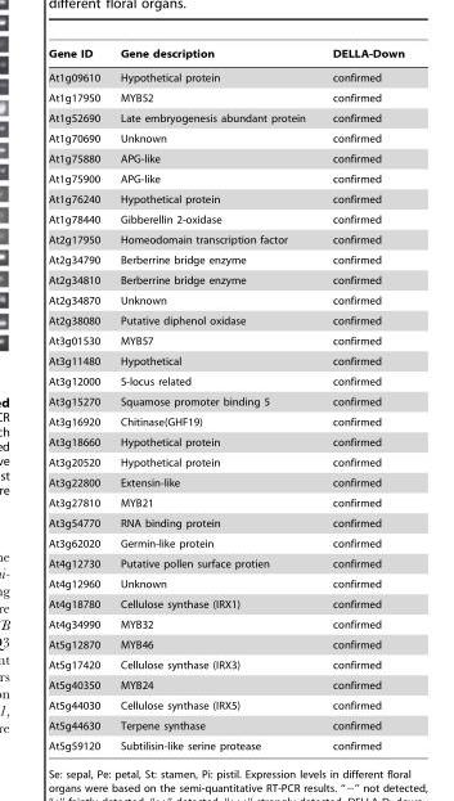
<table><thead><tr><td>Gene ID</td><td>Gene description</td><td>DELLA-Down</td></tr></thead><tbody><tr><td>At1g09610</td><td>Hypothetical protein</td><td>confirmed</td></tr><tr><td>At1g17950</td><td>MYB52</td><td>confirmed</td></tr><tr><td>At1g52690</td><td>Late embryogenesis abundant protein</td><td>confirmed</td></tr><tr><td>At1g70690</td><td>Unknown</td><td>confirmed</td></tr><tr><td>At1g75880</td><td>APG-like</td><td>confirmed</td></tr><tr><td>At1g75900</td><td>APG-like</td><td>confirmed</td></tr><tr><td>At1g76240</td><td>Hypothetical protein</td><td>confirmed</td></tr><tr><td>At1g78440</td><td>Gibberellin 2-oxidase</td><td>confirmed</td></tr><tr><td>At2g17950</td><td>Homeodomain transcription factor</td><td>confirmed</td></tr><tr><td>At2g34790</td><td>Berberrine bridge enzyme</td><td>confirmed</td></tr><tr><td>At2g34810</td><td>Berberrine bridge enzyme</td><td>confirmed</td></tr><tr><td>At2g34870</td><td>Unknown</td><td>confirmed</td></tr><tr><td>At2g38080</td><td>Putative diphenol oxidase</td><td>confirmed</td></tr><tr><td>At3g01530</td><td>MYB57</td><td>confirmed</td></tr><tr><td>At3g11480</td><td>Hypothetical</td><td>confirmed</td></tr><tr><td>At3g12000</td><td>S-locus related</td><td>confirmed</td></tr><tr><td>At3g15270</td><td>Squamose promoter binding 5</td><td>confirmed</td></tr><tr><td>At3g16920</td><td>Chitinase(GHF19)</td><td>confirmed</td></tr><tr><td>At3g18660</td><td>Hypothetical protein</td><td>confirmed</td></tr><tr><td>At3g20520</td><td>Hypothetical protein</td><td>confirmed</td></tr><tr><td>At3g22800</td><td>Extensin-like</td><td>confirmed</td></tr><tr><td>At3g27810</td><td>MYB21</td><td>confirmed</td></tr><tr><td>At3g54770</td><td>RNA binding protein</td><td>confirmed</td></tr><tr><td>At3g62020</td><td>Germin-like protein</td><td>confirmed</td></tr><tr><td>At4g12730</td><td>Putative pollen surface protien</td><td>confirmed</td></tr><tr><td>At4g12960</td><td>Unknown</td><td>confirmed</td></tr><tr><td>At4g18780</td><td>Cellulose synthase (IRX1)</td><td>confirmed</td></tr><tr><td>At4g34990</td><td>MYB32</td><td>confirmed</td></tr><tr><td>At5g12870</td><td>MYB46</td><td>confirmed</td></tr><tr><td>At5g17420</td><td>Cellulose synthase (IRX3)</td><td>confirmed</td></tr><tr><td>At5g40350</td><td>MYB24</td><td>confirmed</td></tr><tr><td>At5g44030</td><td>Cellulose synthase (IRX5)</td><td>confirmed</td></tr><tr><td>At5g44630</td><td>Terpene synthase</td><td>confirmed</td></tr><tr><td>At5g59120</td><td>Subtilisin-like serine protease</td><td>confirmed</td></tr></tbody></table>